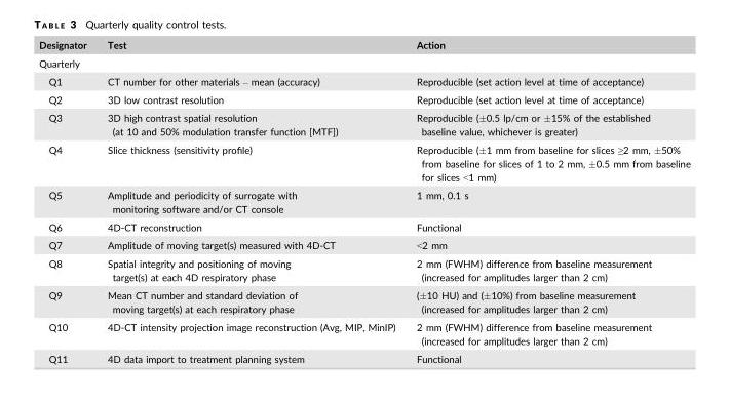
<table><thead><tr><td>Designator</td><td>Test</td><td>Action</td></tr></thead><tbody><tr><td colspan="3">Quarterly</td></tr><tr><td>Q1</td><td>CT number for other materials – mean (accuracy)</td><td>Reproducible (set action level at time of acceptance)</td></tr><tr><td>Q2</td><td>3D low contrast resolution</td><td>Reproducible (set action level at time of acceptance)</td></tr><tr><td>Q3</td><td>3D high contrast spatial resolution (at 10 and 50% modulation transfer function [MTF])</td><td>Reproducible (±0.5 lp/cm or ±15% of the established baseline value, whichever is greater)</td></tr><tr><td>Q4</td><td>Slice thickness (sensitivity profile)</td><td>Reproducible (±1 mm from baseline for slices ≥2 mm, ±50% from baseline for slices of 1 to 2 mm, ±0.5 mm from baseline for slices &lt;1 mm)</td></tr><tr><td>Q5</td><td>Amplitude and periodicity of surrogate with monitoring software and/or CT console</td><td>1 mm, 0.1 s</td></tr><tr><td>Q6</td><td>4D-CT reconstruction</td><td>Functional</td></tr><tr><td>Q7</td><td>Amplitude of moving target(s) measured with 4D-CT</td><td>&lt;2 mm</td></tr><tr><td>Q8</td><td>Spatial integrity and positioning of moving target(s) at each 4D respiratory phase</td><td>2 mm (FWHM) difference from baseline measurement (increased for amplitudes larger than 2 cm)</td></tr><tr><td>Q9</td><td>Mean CT number and standard deviation of moving target(s) at each respiratory phase</td><td>(±10 HU) and (±10%) from baseline measurement (increased for amplitudes larger than 2 cm)</td></tr><tr><td>Q10</td><td>4D-CT intensity projection image reconstruction (Avg, MIP, MinIP)</td><td>2 mm (FWHM) difference from baseline measurement (increased for amplitudes larger than 2 cm)</td></tr><tr><td>Q11</td><td>4D data import to treatment planning system</td><td>Functional</td></tr></tbody></table>